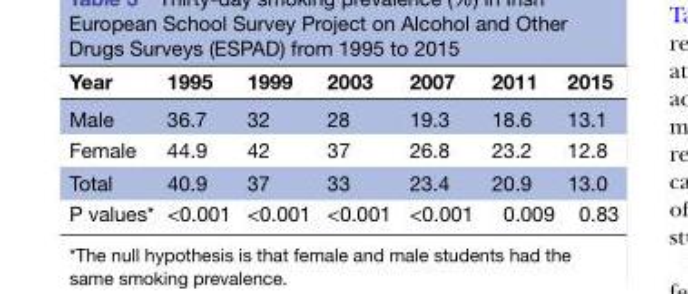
<table><thead><tr><td>Year</td><td>1995</td><td>1999</td><td>2003</td><td>2007</td><td>2011</td><td>2015</td></tr></thead><tbody><tr><td>Male</td><td>36.7</td><td>32</td><td>28</td><td>19.3</td><td>18.6</td><td>13.1</td></tr><tr><td>Female</td><td>44.9</td><td>42</td><td>37</td><td>26.8</td><td>23.2</td><td>12.8</td></tr><tr><td>Total</td><td>40.9</td><td>37</td><td>33</td><td>23.4</td><td>20.9</td><td>13.0</td></tr><tr><td>P values*</td><td>&lt;0.001</td><td>&lt;0.001</td><td>&lt;0.001</td><td>&lt;0.001</td><td>0.009</td><td>0.83</td></tr></tbody></table>